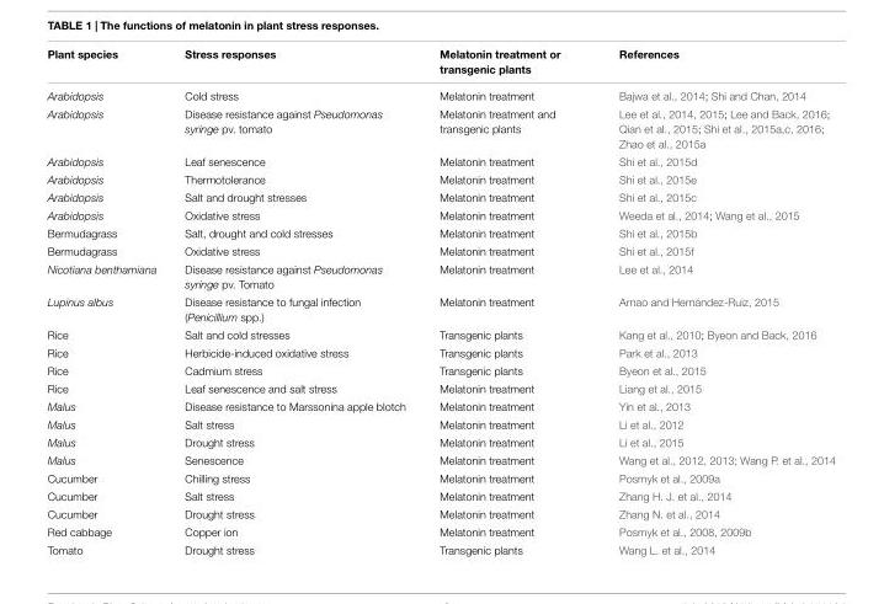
<table><thead><tr><td>Plant species</td><td>Stress responses</td><td>Melatonin treatment or transgenic plants</td><td>References</td></tr></thead><tbody><tr><td>Arabidopsis</td><td>Cold stress</td><td>Melatonin treatment</td><td>Bajwa et al., 2014; Shi and Chan, 2014</td></tr><tr><td>Arabidopsis</td><td>Disease resistance against Pseudomonas syringe pv. tomato</td><td>Melatonin treatment and transgenic plants</td><td>Lee et al., 2014, 2015; Lee and Back, 2016; Qian et al., 2015; Shi et al., 2015a,c, 2016; Zhao et al., 2015a</td></tr><tr><td>Arabidopsis</td><td>Leaf senescence</td><td>Melatonin treatment</td><td>Shi et al., 2015d</td></tr><tr><td>Arabidopsis</td><td>Thermotolerance</td><td>Melatonin treatment</td><td>Shi et al., 2015e</td></tr><tr><td>Arabidopsis</td><td>Salt and drought stresses</td><td>Melatonin treatment</td><td>Shi et al., 2015c</td></tr><tr><td>Arabidopsis</td><td>Oxidative stress</td><td>Melatonin treatment</td><td>Weeda et al., 2014; Wang et al., 2015</td></tr><tr><td>Bermudagrass</td><td>Salt, drought and cold stresses</td><td>Melatonin treatment</td><td>Shi et al., 2015b</td></tr><tr><td>Bermudagrass</td><td>Oxidative stress</td><td>Melatonin treatment</td><td>Shi et al., 2015f</td></tr><tr><td>Nicotiana benthamiana</td><td>Disease resistance against Pseudomonas syringe pv. Tomato</td><td>Melatonin treatment</td><td>Lee et al., 2014</td></tr><tr><td>Lupinus albus</td><td>Disease resistance to fungal infection (Penicillium spp.)</td><td>Melatonin treatment</td><td>Arnao and Hernández-Ruiz, 2015</td></tr><tr><td>Rice</td><td>Salt and cold stresses</td><td>Transgenic plants</td><td>Kang et al., 2010; Byeon and Back, 2016</td></tr><tr><td>Rice</td><td>Herbicide-induced oxidative stress</td><td>Transgenic plants</td><td>Park et al., 2013</td></tr><tr><td>Rice</td><td>Cadmium stress</td><td>Transgenic plants</td><td>Byeon et al., 2015</td></tr><tr><td>Rice</td><td>Leaf senescence and salt stress</td><td>Melatonin treatment</td><td>Liang et al., 2015</td></tr><tr><td>Malus</td><td>Disease resistance to Marssonina apple blotch</td><td>Melatonin treatment</td><td>Yin et al., 2013</td></tr><tr><td>Malus</td><td>Salt stress</td><td>Melatonin treatment</td><td>Li et al., 2012</td></tr><tr><td>Malus</td><td>Drought stress</td><td>Melatonin treatment</td><td>Li et al., 2015</td></tr><tr><td>Malus</td><td>Senescence</td><td>Melatonin treatment</td><td>Wang et al., 2012, 2013; Wang P. et al., 2014</td></tr><tr><td>Cucumber</td><td>Chilling stress</td><td>Melatonin treatment</td><td>Posmyk et al., 2009a</td></tr><tr><td>Cucumber</td><td>Salt stress</td><td>Melatonin treatment</td><td>Zhang H. J. et al., 2014</td></tr><tr><td>Cucumber</td><td>Drought stress</td><td>Melatonin treatment</td><td>Zhang N. et al., 2014</td></tr><tr><td>Red cabbage</td><td>Copper ion</td><td>Melatonin treatment</td><td>Posmyk et al., 2008, 2009b</td></tr><tr><td>Tomato</td><td>Drought stress</td><td>Transgenic plants</td><td>Wang L. et al., 2014</td></tr></tbody></table>